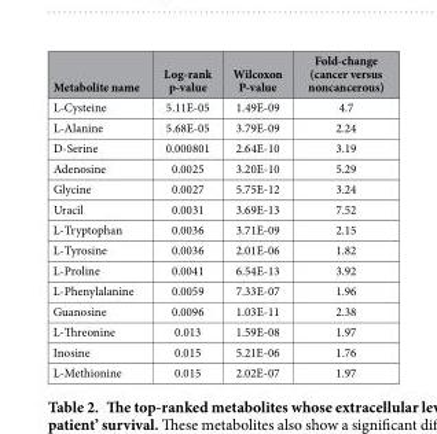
<table><thead><tr><td>Metabolite name</td><td>Log-rank p-value</td><td>Wilcoxon P-value</td><td>Fold-change (cancer versus noncancerous)</td></tr></thead><tbody><tr><td>L-Cysteine</td><td>5.11E-05</td><td>1.49E-09</td><td>4.7</td></tr><tr><td>L-Alanine</td><td>5.68E-05</td><td>3.79E-09</td><td>2.24</td></tr><tr><td>D-Serine</td><td>0.000801</td><td>2.64E-10</td><td>3.19</td></tr><tr><td>Adenosine</td><td>0.0025</td><td>3.20E-10</td><td>5.29</td></tr><tr><td>Glycine</td><td>0.0027</td><td>5.75E-12</td><td>3.24</td></tr><tr><td>Uracil</td><td>0.0031</td><td>3.69E-13</td><td>7.52</td></tr><tr><td>L-Tryptophan</td><td>0.0036</td><td>3.71E-09</td><td>2.15</td></tr><tr><td>L-Tyrosine</td><td>0.0036</td><td>2.01E-06</td><td>1.82</td></tr><tr><td>L-Proline</td><td>0.0041</td><td>6.54E-13</td><td>3.92</td></tr><tr><td>L-Phenylalanine</td><td>0.0059</td><td>7.33E-07</td><td>1.96</td></tr><tr><td>Guanosine</td><td>0.0096</td><td>1.03E-11</td><td>2.38</td></tr><tr><td>L-Threonine</td><td>0.013</td><td>1.59E-08</td><td>1.97</td></tr><tr><td>Inosine</td><td>0.015</td><td>5.21E-06</td><td>1.76</td></tr><tr><td>L-Methionine</td><td>0.015</td><td>2.02E-07</td><td>1.97</td></tr></tbody></table>